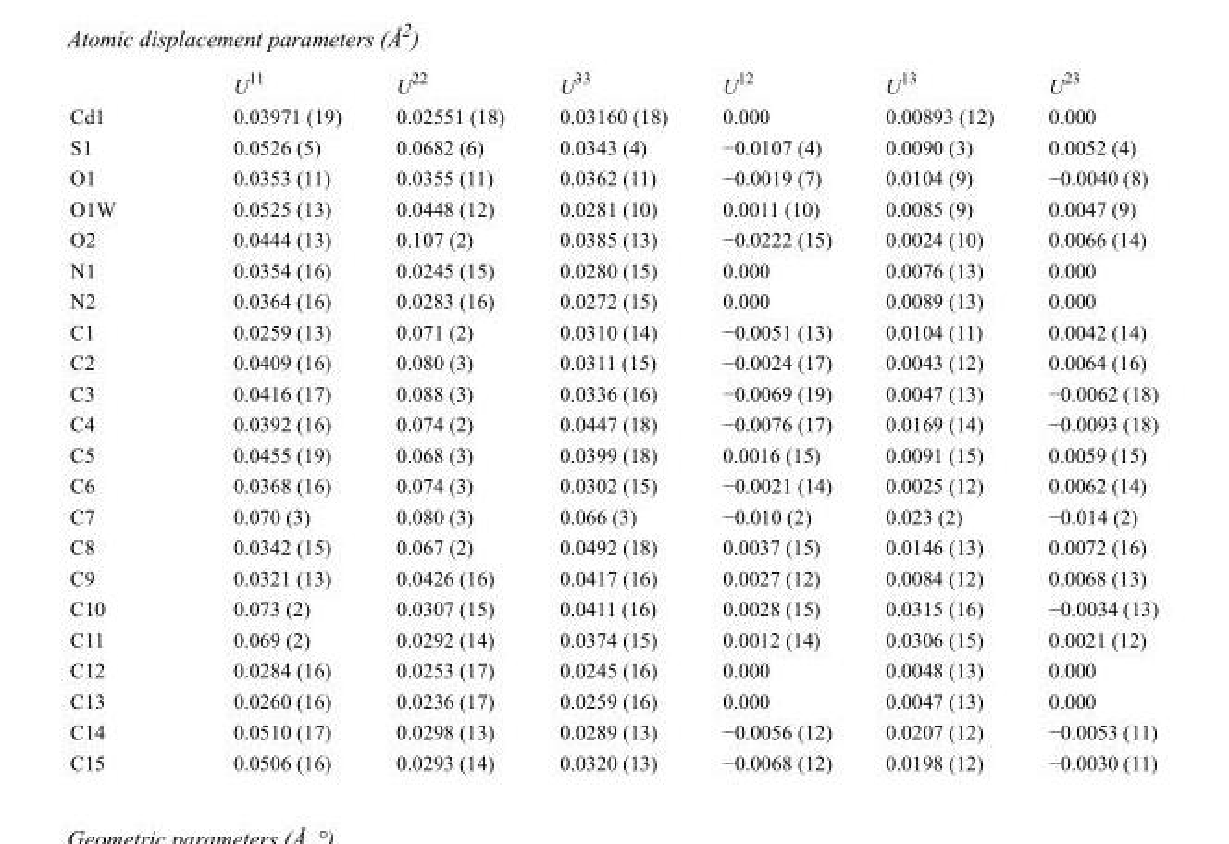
<table><thead><tr><td></td><td>U<sup>11</sup></td><td>U<sup>22</sup></td><td>U<sup>33</sup></td><td>U<sup>12</sup></td><td>U<sup>13</sup></td><td>U<sup>23</sup></td></tr></thead><tbody><tr><td>Cd1</td><td>0.03971 (19)</td><td>0.02551 (18)</td><td>0.03160 (18)</td><td>0.000</td><td>0.00893 (12)</td><td>0.000</td></tr><tr><td>S1</td><td>0.0526 (5)</td><td>0.0682 (6)</td><td>0.0343 (4)</td><td>−0.0107 (4)</td><td>0.0090 (3)</td><td>0.0052 (4)</td></tr><tr><td>O1</td><td>0.0353 (11)</td><td>0.0355 (11)</td><td>0.0362 (11)</td><td>−0.0019 (7)</td><td>0.0104 (9)</td><td>−0.0040 (8)</td></tr><tr><td>O1W</td><td>0.0525 (13)</td><td>0.0448 (12)</td><td>0.0281 (10)</td><td>0.0011 (10)</td><td>0.0085 (9)</td><td>0.0047 (9)</td></tr><tr><td>O2</td><td>0.0444 (13)</td><td>0.107 (2)</td><td>0.0385 (13)</td><td>−0.0222 (15)</td><td>0.0024 (10)</td><td>0.0066 (14)</td></tr><tr><td>N1</td><td>0.0354 (16)</td><td>0.0245 (15)</td><td>0.0280 (15)</td><td>0.000</td><td>0.0076 (13)</td><td>0.000</td></tr><tr><td>N2</td><td>0.0364 (16)</td><td>0.0283 (16)</td><td>0.0272 (15)</td><td>0.000</td><td>0.0089 (13)</td><td>0.000</td></tr><tr><td>C1</td><td>0.0259 (13)</td><td>0.071 (2)</td><td>0.0310 (14)</td><td>−0.0051 (13)</td><td>0.0104 (11)</td><td>0.0042 (14)</td></tr><tr><td>C2</td><td>0.0409 (16)</td><td>0.080 (3)</td><td>0.0311 (15)</td><td>−0.0024 (17)</td><td>0.0043 (12)</td><td>0.0064 (16)</td></tr><tr><td>C3</td><td>0.0416 (17)</td><td>0.088 (3)</td><td>0.0336 (16)</td><td>−0.0069 (19)</td><td>0.0047 (13)</td><td>−0.0062 (18)</td></tr><tr><td>C4</td><td>0.0392 (16)</td><td>0.074 (2)</td><td>0.0447 (18)</td><td>−0.0076 (17)</td><td>0.0169 (14)</td><td>−0.0093 (18)</td></tr><tr><td>C5</td><td>0.0455 (19)</td><td>0.068 (3)</td><td>0.0399 (18)</td><td>0.0016 (15)</td><td>0.0091 (15)</td><td>0.0059 (15)</td></tr><tr><td>C6</td><td>0.0368 (16)</td><td>0.074 (3)</td><td>0.0302 (15)</td><td>−0.0021 (14)</td><td>0.0025 (12)</td><td>0.0062 (14)</td></tr><tr><td>C7</td><td>0.070 (3)</td><td>0.080 (3)</td><td>0.066 (3)</td><td>−0.010 (2)</td><td>0.023 (2)</td><td>−0.014 (2)</td></tr><tr><td>C8</td><td>0.0342 (15)</td><td>0.067 (2)</td><td>0.0492 (18)</td><td>0.0037 (15)</td><td>0.0146 (13)</td><td>0.0072 (16)</td></tr><tr><td>C9</td><td>0.0321 (13)</td><td>0.0426 (16)</td><td>0.0417 (16)</td><td>0.0027 (12)</td><td>0.0084 (12)</td><td>0.0068 (13)</td></tr><tr><td>C10</td><td>0.073 (2)</td><td>0.0307 (15)</td><td>0.0411 (16)</td><td>0.0028 (15)</td><td>0.0315 (16)</td><td>−0.0034 (13)</td></tr><tr><td>C11</td><td>0.069 (2)</td><td>0.0292 (14)</td><td>0.0374 (15)</td><td>0.0012 (14)</td><td>0.0306 (15)</td><td>0.0021 (12)</td></tr><tr><td>C12</td><td>0.0284 (16)</td><td>0.0253 (17)</td><td>0.0245 (16)</td><td>0.000</td><td>0.0048 (13)</td><td>0.000</td></tr><tr><td>C13</td><td>0.0260 (16)</td><td>0.0236 (17)</td><td>0.0259 (16)</td><td>0.000</td><td>0.0047 (13)</td><td>0.000</td></tr><tr><td>C14</td><td>0.0510 (17)</td><td>0.0298 (13)</td><td>0.0289 (13)</td><td>−0.0056 (12)</td><td>0.0207 (12)</td><td>−0.0053 (11)</td></tr><tr><td>C15</td><td>0.0506 (16)</td><td>0.0293 (14)</td><td>0.0320 (13)</td><td>−0.0068 (12)</td><td>0.0198 (12)</td><td>−0.0030 (11)</td></tr></tbody></table>